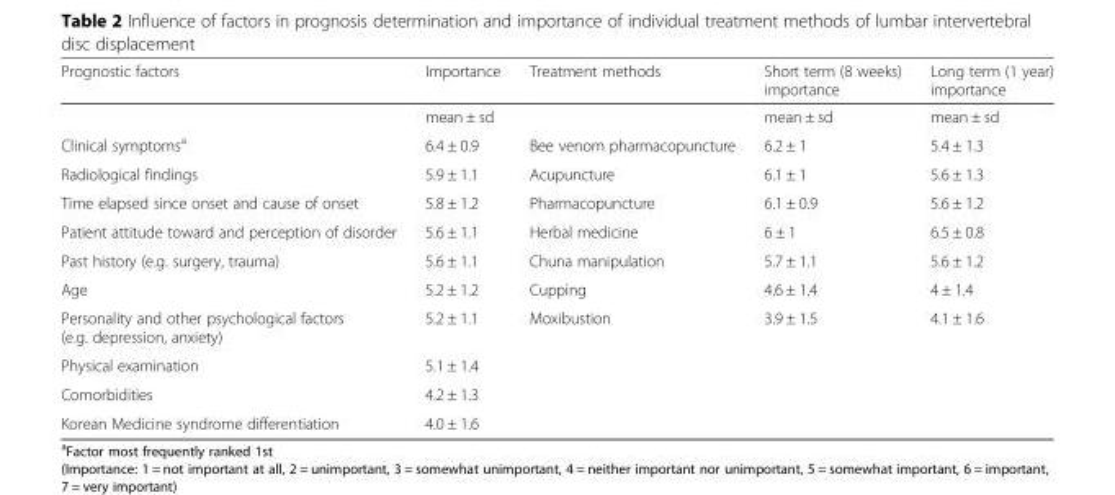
<table><thead><tr><td>Prognostic factors</td><td>Importance</td><td>Treatment methods</td><td>Short term (8 weeks) importance</td><td>Long term (1 year) importance</td></tr></thead><tbody><tr><td></td><td>mean ± sd</td><td></td><td>mean ± sd</td><td>mean ± sd</td></tr><tr><td>Clinical symptoms<sup>a</sup></td><td>6.4 ± 0.9</td><td>Bee venom pharmacopuncture</td><td>6.2 ± 1</td><td>5.4 ± 1.3</td></tr><tr><td>Radiological findings</td><td>5.9 ± 1.1</td><td>Acupuncture</td><td>6.1 ± 1</td><td>5.6 ± 1.3</td></tr><tr><td>Time elapsed since onset and cause of onset</td><td>5.8 ± 1.2</td><td>Pharmacopuncture</td><td>6.1 ± 0.9</td><td>5.6 ± 1.2</td></tr><tr><td>Patient attitude toward and perception of disorder</td><td>5.6 ± 1.1</td><td>Herbal medicine</td><td>6 ± 1</td><td>6.5 ± 0.8</td></tr><tr><td>Past history (e.g. surgery, trauma)</td><td>5.6 ± 1.1</td><td>Chuna manipulation</td><td>5.7 ± 1.1</td><td>5.6 ± 1.2</td></tr><tr><td>Age</td><td>5.2 ± 1.2</td><td>Cupping</td><td>4.6 ± 1.4</td><td>4 ± 1.4</td></tr><tr><td>Personality and other psychological factors (e.g. depression, anxiety)</td><td>5.2 ± 1.1</td><td>Moxibustion</td><td>3.9 ± 1.5</td><td>4.1 ± 1.6</td></tr><tr><td>Physical examination</td><td>5.1 ± 1.4</td><td></td><td></td><td></td></tr><tr><td>Comorbidities</td><td>4.2 ± 1.3</td><td></td><td></td><td></td></tr><tr><td>Korean Medicine syndrome differentiation</td><td>4.0 ± 1.6</td><td></td><td></td><td></td></tr></tbody></table>